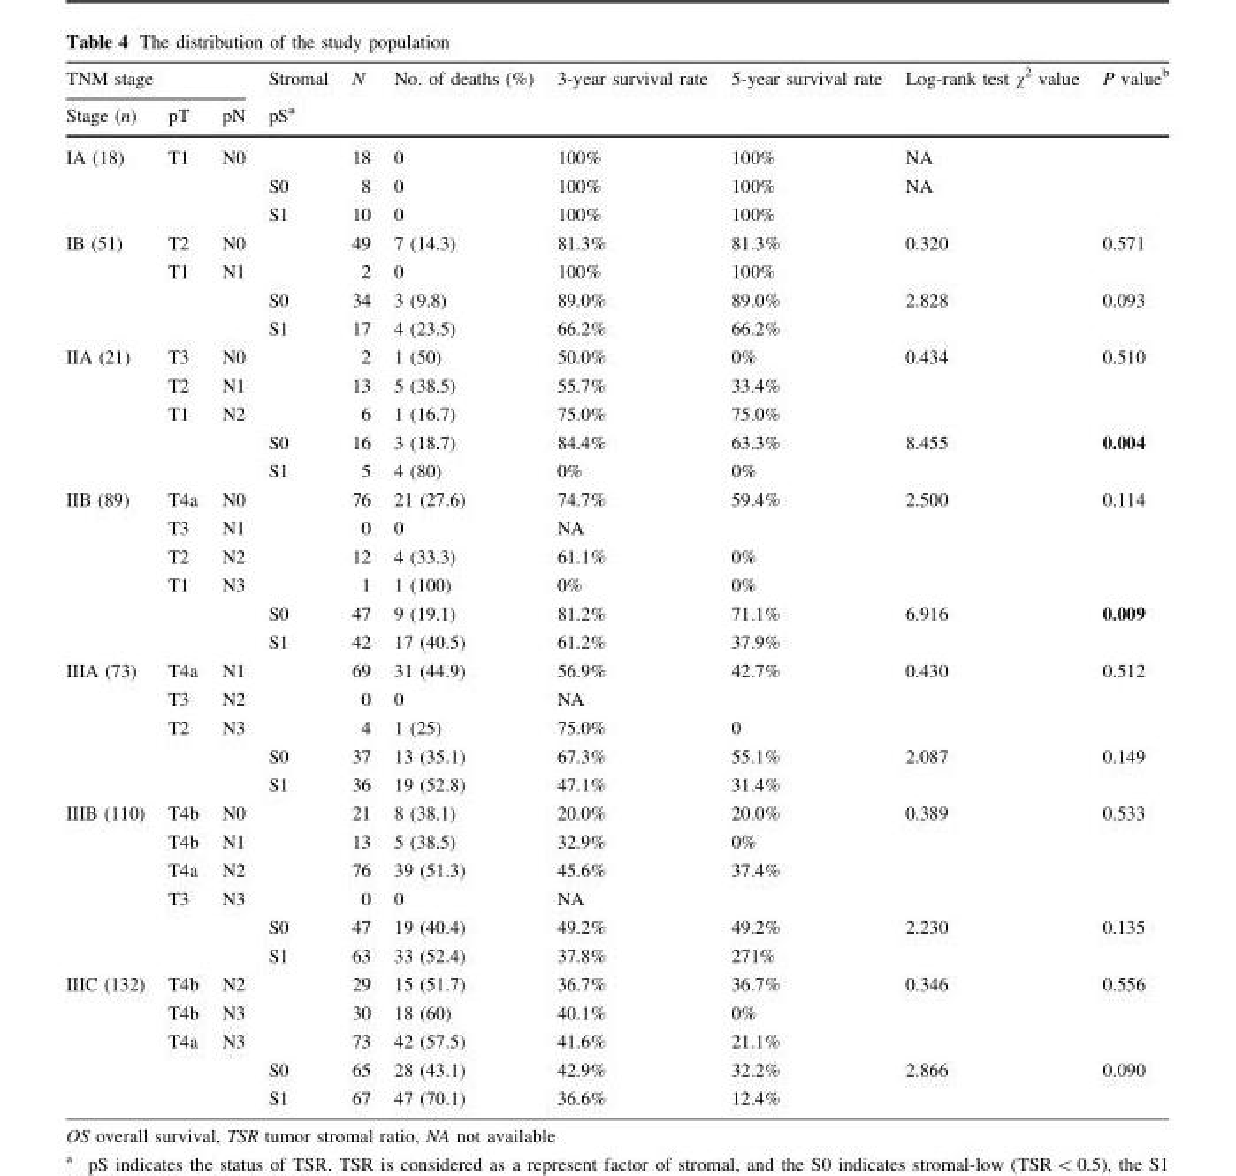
<table><thead><tr><td colspan="3">TNM stage</td><td rowspan="2">Stromal pS<sup>a</sup></td><td rowspan="2">N</td><td rowspan="2">No. of deaths (%)</td><td rowspan="2">3-year survival rate</td><td rowspan="2">5-year survival rate</td><td rowspan="2">Log-rank test χ<sup>2</sup> value</td><td rowspan="2">P value<sup>b</sup></td></tr><tr><td>Stage (n)</td><td>pT</td><td>pN</td></tr></thead><tbody><tr><td rowspan="3">IA (18)</td><td>T1</td><td>N0</td><td></td><td>18</td><td>0</td><td>100%</td><td>100%</td><td>NA</td><td></td></tr><tr><td></td><td></td><td>S0</td><td>8</td><td>0</td><td>100%</td><td>100%</td><td>NA</td><td></td></tr><tr><td></td><td></td><td>S1</td><td>10</td><td>0</td><td>100%</td><td>100%</td><td></td><td></td></tr><tr><td rowspan="4">IB (51)</td><td>T2</td><td>N0</td><td></td><td>49</td><td>7 (14.3)</td><td>81.3%</td><td>81.3%</td><td>0.320</td><td>0.571</td></tr><tr><td>T1</td><td>N1</td><td></td><td>2</td><td>0</td><td>100%</td><td>100%</td><td></td><td></td></tr><tr><td></td><td></td><td>S0</td><td>34</td><td>3 (9.8)</td><td>89.0%</td><td>89.0%</td><td>2.828</td><td>0.093</td></tr><tr><td></td><td></td><td>S1</td><td>17</td><td>4 (23.5)</td><td>66.2%</td><td>66.2%</td><td></td><td></td></tr><tr><td rowspan="5">IIA (21)</td><td>T3</td><td>N0</td><td></td><td>2</td><td>1 (50)</td><td>50.0%</td><td>0%</td><td>0.434</td><td>0.510</td></tr><tr><td>T2</td><td>N1</td><td></td><td>13</td><td>5 (38.5)</td><td>55.7%</td><td>33.4%</td><td></td><td></td></tr><tr><td>T1</td><td>N2</td><td></td><td>6</td><td>1 (16.7)</td><td>75.0%</td><td>75.0%</td><td></td><td></td></tr><tr><td></td><td></td><td>S0</td><td>16</td><td>3 (18.7)</td><td>84.4%</td><td>63.3%</td><td>8.455</td><td>0.004</td></tr><tr><td></td><td></td><td>S1</td><td>5</td><td>4 (80)</td><td>0%</td><td>0%</td><td></td><td></td></tr><tr><td rowspan="6">IIB (89)</td><td>T4a</td><td>N0</td><td></td><td>76</td><td>21 (27.6)</td><td>74.7%</td><td>59.4%</td><td>2.500</td><td>0.114</td></tr><tr><td>T3</td><td>N1</td><td></td><td>0</td><td>0</td><td>NA</td><td></td><td></td><td></td></tr><tr><td>T2</td><td>N2</td><td></td><td>12</td><td>4 (33.3)</td><td>61.1%</td><td>0%</td><td></td><td></td></tr><tr><td>T1</td><td>N3</td><td></td><td>1</td><td>1 (100)</td><td>0%</td><td>0%</td><td></td><td></td></tr><tr><td></td><td></td><td>S0</td><td>47</td><td>9 (19.1)</td><td>81.2%</td><td>71.1%</td><td>6.916</td><td>0.009</td></tr><tr><td></td><td></td><td>S1</td><td>42</td><td>17 (40.5)</td><td>61.2%</td><td>37.9%</td><td></td><td></td></tr><tr><td rowspan="5">IIIA (73)</td><td>T4a</td><td>N1</td><td></td><td>69</td><td>31 (44.9)</td><td>56.9%</td><td>42.7%</td><td>0.430</td><td>0.512</td></tr><tr><td>T3</td><td>N2</td><td></td><td>0</td><td>0</td><td>NA</td><td></td><td></td><td></td></tr><tr><td>T2</td><td>N3</td><td></td><td>4</td><td>1 (25)</td><td>75.0%</td><td>0</td><td></td><td></td></tr><tr><td></td><td></td><td>S0</td><td>37</td><td>13 (35.1)</td><td>67.3%</td><td>55.1%</td><td>2.087</td><td>0.149</td></tr><tr><td></td><td></td><td>S1</td><td>36</td><td>19 (52.8)</td><td>47.1%</td><td>31.4%</td><td></td><td></td></tr><tr><td rowspan="6">IIIB (110)</td><td>T4b</td><td>N0</td><td></td><td>21</td><td>8 (38.1)</td><td>20.0%</td><td>20.0%</td><td>0.389</td><td>0.533</td></tr><tr><td>T4b</td><td>N1</td><td></td><td>13</td><td>5 (38.5)</td><td>32.9%</td><td>0%</td><td></td><td></td></tr><tr><td>T4a</td><td>N2</td><td></td><td>76</td><td>39 (51.3)</td><td>45.6%</td><td>37.4%</td><td></td><td></td></tr><tr><td>T3</td><td>N3</td><td></td><td>0</td><td>0</td><td>NA</td><td></td><td></td><td></td></tr><tr><td></td><td></td><td>S0</td><td>47</td><td>19 (40.4)</td><td>49.2%</td><td>49.2%</td><td>2.230</td><td>0.135</td></tr><tr><td></td><td></td><td>S1</td><td>63</td><td>33 (52.4)</td><td>37.8%</td><td>271%</td><td></td><td></td></tr><tr><td rowspan="5">IIIC (132)</td><td>T4b</td><td>N2</td><td></td><td>29</td><td>15 (51.7)</td><td>36.7%</td><td>36.7%</td><td>0.346</td><td>0.556</td></tr><tr><td>T4b</td><td>N3</td><td></td><td>30</td><td>18 (60)</td><td>40.1%</td><td>0%</td><td></td><td></td></tr><tr><td>T4a</td><td>N3</td><td></td><td>73</td><td>42 (57.5)</td><td>41.6%</td><td>21.1%</td><td></td><td></td></tr><tr><td></td><td></td><td>S0</td><td>65</td><td>28 (43.1)</td><td>42.9%</td><td>32.2%</td><td>2.866</td><td>0.090</td></tr><tr><td></td><td></td><td>S1</td><td>67</td><td>47 (70.1)</td><td>36.6%</td><td>12.4%</td><td></td><td></td></tr></tbody></table>